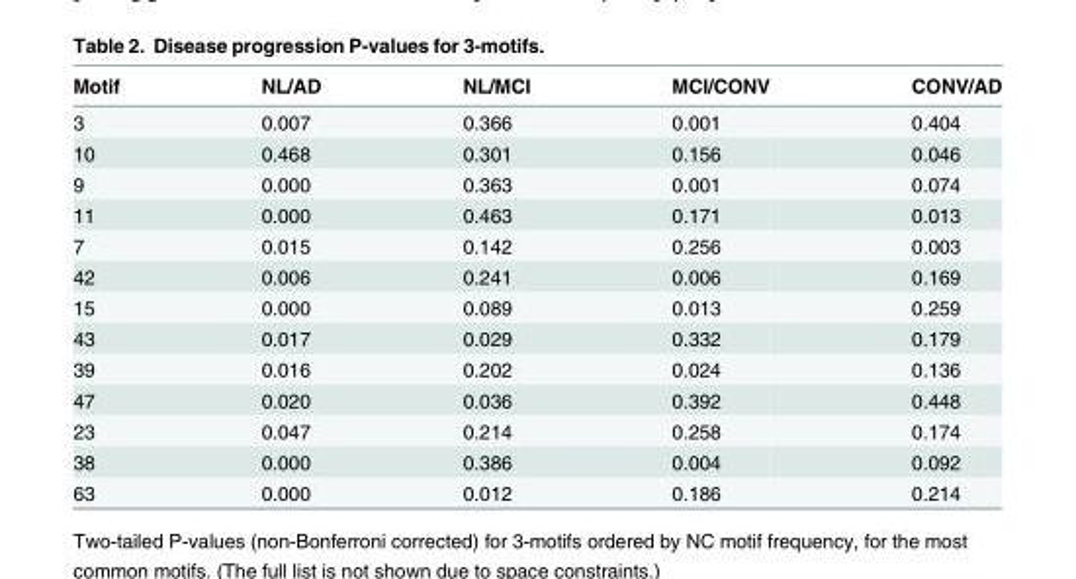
<table><thead><tr><td>Motif</td><td>NL/AD</td><td>NL/MCI</td><td>MCI/CONV</td><td>CONV/AD</td></tr></thead><tbody><tr><td>3</td><td>0.007</td><td>0.366</td><td>0.001</td><td>0.404</td></tr><tr><td>10</td><td>0.468</td><td>0.301</td><td>0.156</td><td>0.046</td></tr><tr><td>9</td><td>0.000</td><td>0.363</td><td>0.001</td><td>0.074</td></tr><tr><td>11</td><td>0.000</td><td>0.463</td><td>0.171</td><td>0.013</td></tr><tr><td>7</td><td>0.015</td><td>0.142</td><td>0.256</td><td>0.003</td></tr><tr><td>42</td><td>0.006</td><td>0.241</td><td>0.006</td><td>0.169</td></tr><tr><td>15</td><td>0.000</td><td>0.089</td><td>0.013</td><td>0.259</td></tr><tr><td>43</td><td>0.017</td><td>0.029</td><td>0.332</td><td>0.179</td></tr><tr><td>39</td><td>0.016</td><td>0.202</td><td>0.024</td><td>0.136</td></tr><tr><td>47</td><td>0.020</td><td>0.036</td><td>0.392</td><td>0.448</td></tr><tr><td>23</td><td>0.047</td><td>0.214</td><td>0.258</td><td>0.174</td></tr><tr><td>38</td><td>0.000</td><td>0.386</td><td>0.004</td><td>0.092</td></tr><tr><td>63</td><td>0.000</td><td>0.012</td><td>0.186</td><td>0.214</td></tr></tbody></table>